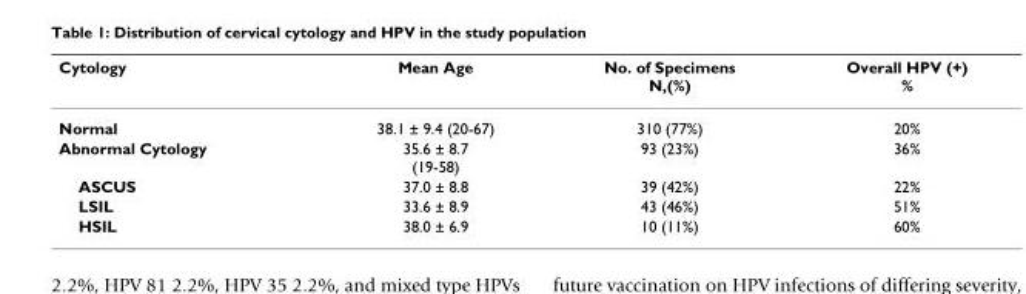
<table><thead><tr><td>Cytology</td><td>Mean Age</td><td>No. of Specimens N,(%)</td><td>Overall HPV (+) %</td></tr></thead><tbody><tr><td>Normal</td><td>38.1 ± 9.4 (20-67)</td><td>310 (77%)</td><td>20%</td></tr><tr><td>Abnormal Cytology</td><td>35.6 ± 8.7 (19-58)</td><td>93 (23%)</td><td>36%</td></tr><tr><td>ASCUS</td><td>37.0 ± 8.8</td><td>39 (42%)</td><td>22%</td></tr><tr><td>LSIL</td><td>33.6 ± 8.9</td><td>43 (46%)</td><td>51%</td></tr><tr><td>HSIL</td><td>38.0 ± 6.9</td><td>10 (11%)</td><td>60%</td></tr></tbody></table>